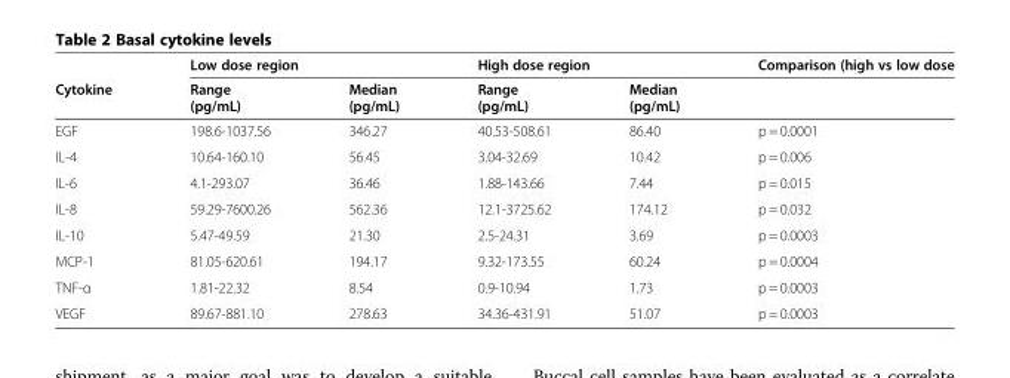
<table><thead><tr><td rowspan="2">Cytokine</td><td colspan="2">Low dose region</td><td colspan="2">High dose region</td><td rowspan="2">Comparison (high vs low dose</td></tr><tr><td>Range (pg/mL)</td><td>Median (pg/mL)</td><td>Range (pg/mL)</td><td>Median (pg/mL)</td></tr></thead><tbody><tr><td>EGF</td><td>198.6-1037.56</td><td>346.27</td><td>40.53-508.61</td><td>86.40</td><td>p = 0.0001</td></tr><tr><td>IL-4</td><td>10.64-160.10</td><td>56.45</td><td>3.04-32.69</td><td>10.42</td><td>p = 0.006</td></tr><tr><td>IL-6</td><td>4.1-293.07</td><td>36.46</td><td>1.88-143.66</td><td>7.44</td><td>p = 0.015</td></tr><tr><td>IL-8</td><td>59.29-7600.26</td><td>562.36</td><td>12.1-3725.62</td><td>174.12</td><td>p = 0.032</td></tr><tr><td>IL-10</td><td>5.47-49.59</td><td>21.30</td><td>2.5-24.31</td><td>3.69</td><td>p = 0.0003</td></tr><tr><td>MCP-1</td><td>81.05-620.61</td><td>194.17</td><td>9.32-173.55</td><td>60.24</td><td>p = 0.0004</td></tr><tr><td>TNF-α</td><td>1.81-22.32</td><td>8.54</td><td>0.9-10.94</td><td>1.73</td><td>p = 0.0003</td></tr><tr><td>VEGF</td><td>89.67-881.10</td><td>278.63</td><td>34.36-431.91</td><td>51.07</td><td>p = 0.0003</td></tr></tbody></table>